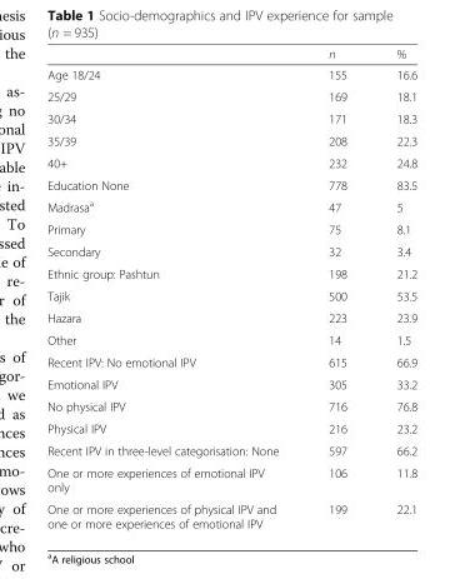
<table><thead><tr><td></td><td>n</td><td>%</td></tr></thead><tbody><tr><td>Age 18/24</td><td>155</td><td>16.6</td></tr><tr><td>25/29</td><td>169</td><td>18.1</td></tr><tr><td>30/34</td><td>171</td><td>18.3</td></tr><tr><td>35/39</td><td>208</td><td>22.3</td></tr><tr><td>40+</td><td>232</td><td>24.8</td></tr><tr><td>Education None</td><td>778</td><td>83.5</td></tr><tr><td>Madrasa<sup>a</sup></td><td>47</td><td>5</td></tr><tr><td>Primary</td><td>75</td><td>8.1</td></tr><tr><td>Secondary</td><td>32</td><td>3.4</td></tr><tr><td>Ethnic group: Pashtun</td><td>198</td><td>21.2</td></tr><tr><td>Tajik</td><td>500</td><td>53.5</td></tr><tr><td>Hazara</td><td>223</td><td>23.9</td></tr><tr><td>Other</td><td>14</td><td>1.5</td></tr><tr><td>Recent IPV: No emotional IPV</td><td>615</td><td>66.9</td></tr><tr><td>Emotional IPV</td><td>305</td><td>33.2</td></tr><tr><td>No physical IPV</td><td>716</td><td>76.8</td></tr><tr><td>Physical IPV</td><td>216</td><td>23.2</td></tr><tr><td>Recent IPV in three-level categorisation: None</td><td>597</td><td>66.2</td></tr><tr><td>One or more experiences of emotional IPV only</td><td>106</td><td>11.8</td></tr><tr><td>One or more experiences of physical IPV and one or more experiences of emotional IPV</td><td>199</td><td>22.1</td></tr></tbody></table>